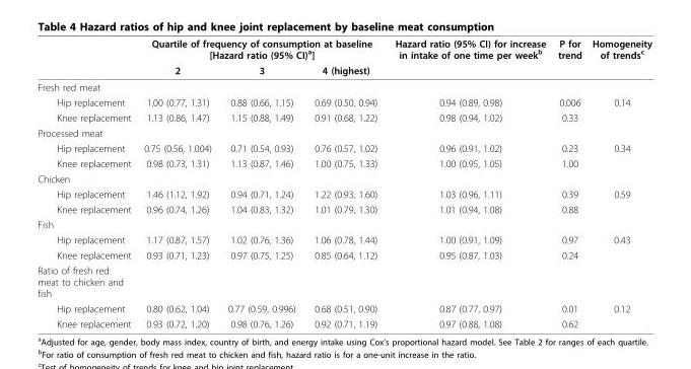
<table><thead><tr><td rowspan="2"></td><td colspan="3">Quartile of frequency of consumption at baseline [Hazard ratio (95% CI)<sup>a</sup>]</td><td rowspan="2">Hazard ratio (95% CI) for increase in intake of one time per week<sup>b</sup></td><td rowspan="2">P for trend</td><td rowspan="2">Homogeneity of trends<sup>c</sup></td></tr><tr><td>2</td><td>3</td><td>4 (highest)</td></tr></thead><tbody><tr><td colspan="7">Fresh red meat</td></tr><tr><td>Hip replacement</td><td>1.00 (0.77, 1.31)</td><td>0.88 (0.66, 1.15)</td><td>0.69 (0.50, 0.94)</td><td>0.94 (0.89, 0.98)</td><td>0.006</td><td>0.14</td></tr><tr><td>Knee replacement</td><td>1.13 (0.86, 1.47)</td><td>1.15 (0.88, 1.49)</td><td>0.91 (0.68, 1.22)</td><td>0.98 (0.94, 1.02)</td><td>0.33</td><td></td></tr><tr><td colspan="7">Processed meat</td></tr><tr><td>Hip replacement</td><td>0.75 (0.56, 1.004)</td><td>0.71 (0.54, 0.93)</td><td>0.76 (0.57, 1.02)</td><td>0.96 (0.91, 1.02)</td><td>0.23</td><td>0.34</td></tr><tr><td>Knee replacement</td><td>0.98 (0.73, 1.31)</td><td>1.13 (0.87, 1.46)</td><td>1.00 (0.75, 1.33)</td><td>1.00 (0.95, 1.05)</td><td>1.00</td><td></td></tr><tr><td colspan="7">Chicken</td></tr><tr><td>Hip replacement</td><td>1.46 (1.12, 1.92)</td><td>0.94 (0.71, 1.24)</td><td>1.22 (0.93, 1.60)</td><td>1.03 (0.96, 1.11)</td><td>0.39</td><td>0.59</td></tr><tr><td>Knee replacement</td><td>0.96 (0.74, 1.26)</td><td>1.04 (0.83, 1.32)</td><td>1.01 (0.79, 1.30)</td><td>1.01 (0.94, 1.08)</td><td>0.88</td><td></td></tr><tr><td colspan="7">Fish</td></tr><tr><td>Hip replacement</td><td>1.17 (0.87, 1.57)</td><td>1.02 (0.76, 1.36)</td><td>1.06 (0.78, 1.44)</td><td>1.00 (0.91, 1.09)</td><td>0.97</td><td>0.43</td></tr><tr><td>Knee replacement</td><td>0.93 (0.71, 1.23)</td><td>0.97 (0.75, 1.25)</td><td>0.85 (0.64, 1.12)</td><td>0.95 (0.87, 1.03)</td><td>0.24</td><td></td></tr><tr><td colspan="7">Ratio of fresh red meat to chicken and fish</td></tr><tr><td>Hip replacement</td><td>0.80 (0.62, 1.04)</td><td>0.77 (0.59, 0.996)</td><td>0.68 (0.51, 0.90)</td><td>0.87 (0.77, 0.97)</td><td>0.01</td><td>0.12</td></tr><tr><td>Knee replacement</td><td>0.93 (0.72, 1.20)</td><td>0.98 (0.76, 1.26)</td><td>0.92 (0.71, 1.19)</td><td>0.97 (0.88, 1.08)</td><td>0.62</td><td></td></tr></tbody></table>